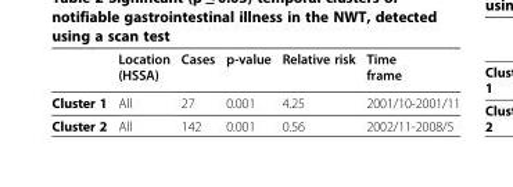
<table><thead><tr><td></td><td>Location (HSSA)</td><td>Cases</td><td>p-value</td><td>Relative risk</td><td>Time frame</td></tr></thead><tbody><tr><td>Cluster 1</td><td>All</td><td>27</td><td>0.001</td><td>4.25</td><td>2001/10-2001/11</td></tr><tr><td>Cluster 2</td><td>All</td><td>142</td><td>0.001</td><td>0.56</td><td>2002/11-2008/5</td></tr></tbody></table>